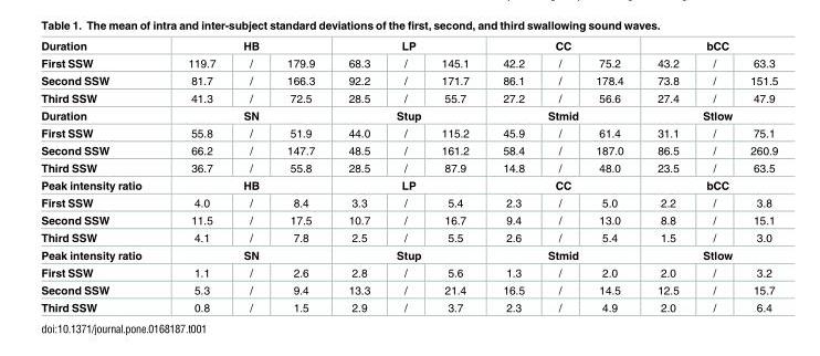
<table><tbody><tr><td>Duration</td><td colspan="3">HB</td><td colspan="3">LP</td><td colspan="3">CC</td><td colspan="3">bCC</td></tr><tr><td>First SSW</td><td>119.7</td><td>/</td><td>179.9</td><td>68.3</td><td>/</td><td>145.1</td><td>42.2</td><td>/</td><td>75.2</td><td>43.2</td><td>/</td><td>63.3</td></tr><tr><td>Second SSW</td><td>81.7</td><td>/</td><td>166.3</td><td>92.2</td><td>/</td><td>171.7</td><td>86.1</td><td>/</td><td>178.4</td><td>73.8</td><td>/</td><td>151.5</td></tr><tr><td>Third SSW</td><td>41.3</td><td>/</td><td>72.5</td><td>28.5</td><td>/</td><td>55.7</td><td>27.2</td><td>/</td><td>56.6</td><td>27.4</td><td>/</td><td>47.9</td></tr><tr><td>Duration</td><td colspan="3">SN</td><td colspan="3">Stup</td><td colspan="3">Stmid</td><td colspan="3">Stlow</td></tr><tr><td>First SSW</td><td>55.8</td><td>/</td><td>51.9</td><td>44.0</td><td>/</td><td>115.2</td><td>45.9</td><td>/</td><td>61.4</td><td>31.1</td><td>/</td><td>75.1</td></tr><tr><td>Second SSW</td><td>66.2</td><td>/</td><td>147.7</td><td>48.5</td><td>/</td><td>161.2</td><td>58.4</td><td>/</td><td>187.0</td><td>86.5</td><td>/</td><td>260.9</td></tr><tr><td>Third SSW</td><td>36.7</td><td>/</td><td>55.8</td><td>28.5</td><td>/</td><td>87.9</td><td>14.8</td><td>/</td><td>48.0</td><td>23.5</td><td>/</td><td>63.5</td></tr><tr><td>Peak intensity ratio</td><td colspan="3">HB</td><td colspan="3">LP</td><td colspan="3">CC</td><td colspan="3">bCC</td></tr><tr><td>First SSW</td><td>4.0</td><td>/</td><td>8.4</td><td>3.3</td><td>/</td><td>5.4</td><td>2.3</td><td>/</td><td>5.0</td><td>2.2</td><td>/</td><td>3.8</td></tr><tr><td>Second SSW</td><td>11.5</td><td>/</td><td>17.5</td><td>10.7</td><td>/</td><td>16.7</td><td>9.4</td><td>/</td><td>13.0</td><td>8.8</td><td>/</td><td>15.1</td></tr><tr><td>Third SSW</td><td>4.1</td><td>/</td><td>7.8</td><td>2.5</td><td>/</td><td>5.5</td><td>2.6</td><td>/</td><td>5.4</td><td>1.5</td><td>/</td><td>3.0</td></tr><tr><td>Peak intensity ratio</td><td colspan="3">SN</td><td colspan="3">Stup</td><td colspan="3">Stmid</td><td colspan="3">Stlow</td></tr><tr><td>First SSW</td><td>1.1</td><td>/</td><td>2.6</td><td>2.8</td><td>/</td><td>5.6</td><td>1.3</td><td>/</td><td>2.0</td><td>2.0</td><td>/</td><td>3.2</td></tr><tr><td>Second SSW</td><td>5.3</td><td>/</td><td>9.4</td><td>13.3</td><td>/</td><td>21.4</td><td>16.5</td><td>/</td><td>14.5</td><td>12.5</td><td>/</td><td>15.7</td></tr><tr><td>Third SSW</td><td>0.8</td><td>/</td><td>1.5</td><td>2.9</td><td>/</td><td>3.7</td><td>2.3</td><td>/</td><td>4.9</td><td>2.0</td><td>/</td><td>6.4</td></tr></tbody></table>